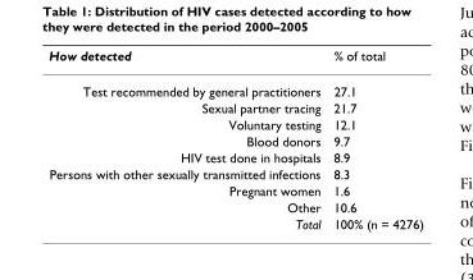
<table><thead><tr><td>How detected</td><td>% of total</td></tr></thead><tbody><tr><td>Test recommended by general practitioners</td><td>27.1</td></tr><tr><td>Sexual partner tracing</td><td>21.7</td></tr><tr><td>Voluntary testing</td><td>12.1</td></tr><tr><td>Blood donors</td><td>9.7</td></tr><tr><td>HIV test done in hospitals</td><td>8.9</td></tr><tr><td>Persons with other sexually transmitted infections</td><td>8.3</td></tr><tr><td>Pregnant women</td><td>1.6</td></tr><tr><td>Other</td><td>10.6</td></tr><tr><td>Total</td><td>100% (n = 4276)</td></tr></tbody></table>